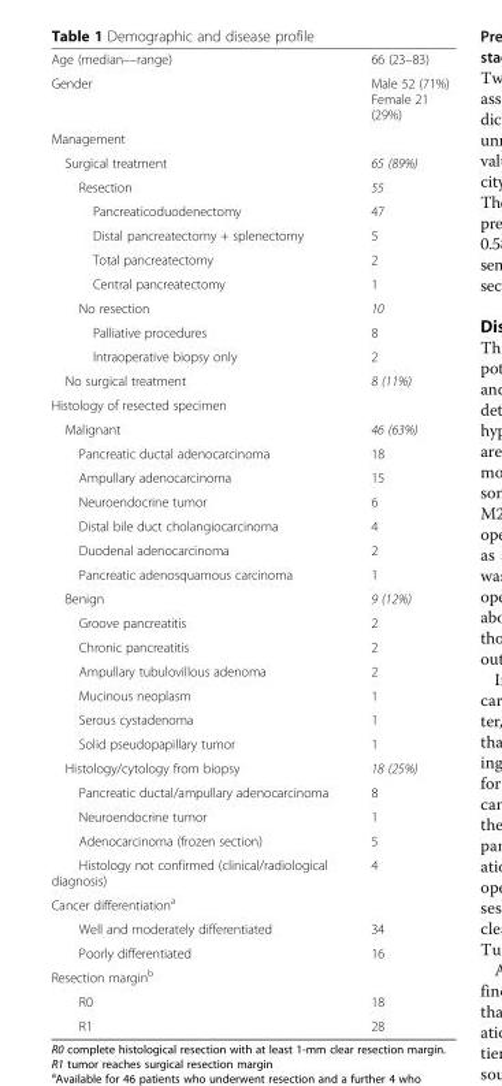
<table><tbody><tr><td>Age (median––range)</td><td>66 (23–83)</td></tr><tr><td>Gender</td><td>Male 52 (71%) Female 21 (29%)</td></tr><tr><td colspan="2">Management</td></tr><tr><td>Surgical treatment</td><td>65 (89%)</td></tr><tr><td>Resection</td><td>55</td></tr><tr><td>Pancreaticoduodenectomy</td><td>47</td></tr><tr><td>Distal pancreatectomy + splenectomy</td><td>5</td></tr><tr><td>Total pancreatectomy</td><td>2</td></tr><tr><td>Central pancreatectomy</td><td>1</td></tr><tr><td>No resection</td><td>10</td></tr><tr><td>Palliative procedures</td><td>8</td></tr><tr><td>Intraoperative biopsy only</td><td>2</td></tr><tr><td>No surgical treatment</td><td>8 (11%)</td></tr><tr><td colspan="2">Histology of resected specimen</td></tr><tr><td>Malignant</td><td>46 (63%)</td></tr><tr><td>Pancreatic ductal adenocarcinoma</td><td>18</td></tr><tr><td>Ampullary adenocarcinoma</td><td>15</td></tr><tr><td>Neuroendocrine tumor</td><td>6</td></tr><tr><td>Distal bile duct cholangiocarcinoma</td><td>4</td></tr><tr><td>Duodenal adenocarcinoma</td><td>2</td></tr><tr><td>Pancreatic adenosquamous carcinoma</td><td>1</td></tr><tr><td>Benign</td><td>9 (12%)</td></tr><tr><td>Groove pancreatitis</td><td>2</td></tr><tr><td>Chronic pancreatitis</td><td>2</td></tr><tr><td>Ampullary tubulovillous adenoma</td><td>2</td></tr><tr><td>Mucinous neoplasm</td><td>1</td></tr><tr><td>Serous cystadenoma</td><td>1</td></tr><tr><td>Solid pseudopapillary tumor</td><td>1</td></tr><tr><td>Histology/cytology from biopsy</td><td>18 (25%)</td></tr><tr><td>Pancreatic ductal/ampullary adenocarcinoma</td><td>8</td></tr><tr><td>Neuroendocrine tumor</td><td>1</td></tr><tr><td>Adenocarcinoma (frozen section)</td><td>5</td></tr><tr><td>Histology not confirmed (clinical/radiological diagnosis)</td><td>4</td></tr><tr><td colspan="2">Cancer differentiation<sup>a</sup></td></tr><tr><td>Well and moderately differentiated</td><td>34</td></tr><tr><td>Poorly differentiated</td><td>16</td></tr><tr><td colspan="2">Resection margin<sup>b</sup></td></tr><tr><td>R0</td><td>18</td></tr><tr><td>R1</td><td>28</td></tr></tbody></table>